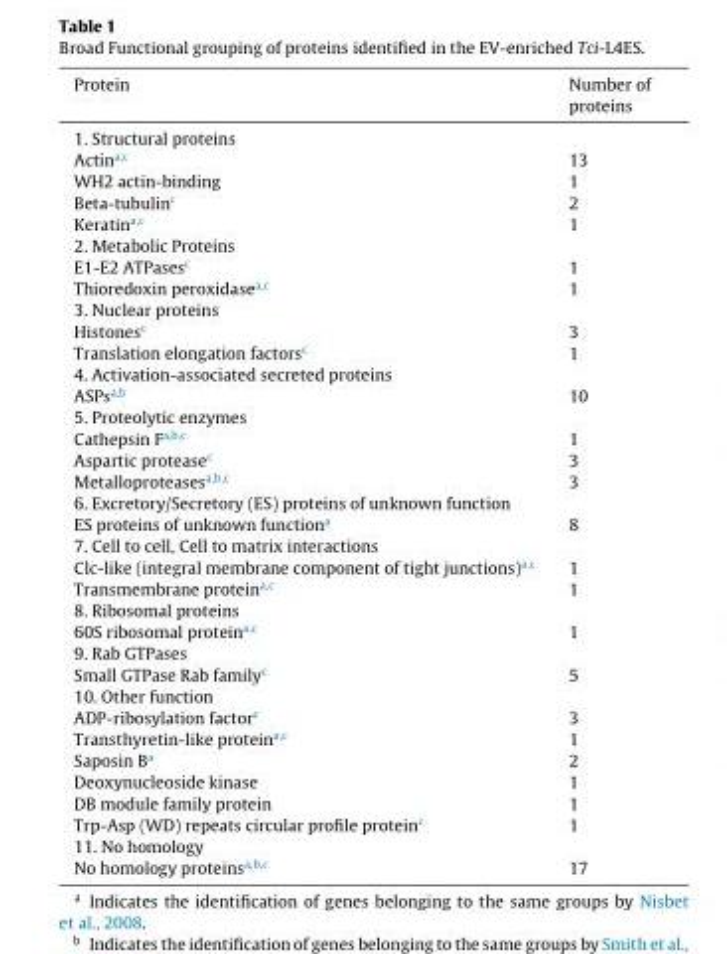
<table><thead><tr><td>Protein</td><td>Number of proteins</td></tr></thead><tbody><tr><td colspan="2">1. Structural proteins</td></tr><tr><td>Actin<sup>a</sup>,<sup>c</sup></td><td>13</td></tr><tr><td>WH2 actin-binding</td><td>1</td></tr><tr><td>Beta-tubulin<sup>c</sup></td><td>2</td></tr><tr><td>Keratin<sup>a</sup>,<sup>c</sup></td><td>1</td></tr><tr><td colspan="2">2. Metabolic Proteins</td></tr><tr><td>E1-E2 ATPases<sup>c</sup></td><td>1</td></tr><tr><td>Thioredoxin peroxidase<sup>a</sup>,<sup>c</sup></td><td>1</td></tr><tr><td colspan="2">3. Nuclear proteins</td></tr><tr><td>Histones<sup>c</sup></td><td>3</td></tr><tr><td>Translation elongation factors<sup>c</sup></td><td>1</td></tr><tr><td colspan="2">4. Activation-associated secreted proteins</td></tr><tr><td>ASPs<sup>a</sup>,<sup>b</sup></td><td>10</td></tr><tr><td colspan="2">5. Proteolytic enzymes</td></tr><tr><td>Cathepsin F<sup>a</sup>,<sup>b</sup>,<sup>c</sup></td><td>1</td></tr><tr><td>Aspartic protease<sup>c</sup></td><td>3</td></tr><tr><td>Metalloproteases<sup>a</sup>,<sup>b</sup>,<sup>c</sup></td><td>3</td></tr><tr><td colspan="2">6. Excretory/Secretory (ES) proteins of unknown function</td></tr><tr><td>ES proteins of unknown function<sup>a</sup></td><td>8</td></tr><tr><td colspan="2">7. Cell to cell, Cell to matrix interactions</td></tr><tr><td>Clc-like (integral membrane component of tight junctions)<sup>a</sup>,<sup>c</sup></td><td>1</td></tr><tr><td>Transmembrane protein<sup>a</sup>,<sup>c</sup></td><td>1</td></tr><tr><td colspan="2">8. Ribosomal proteins</td></tr><tr><td>60S ribosomal protein<sup>a</sup>,<sup>c</sup></td><td>1</td></tr><tr><td colspan="2">9. Rab GTPases</td></tr><tr><td>Small GTPase Rab family<sup>c</sup></td><td>5</td></tr><tr><td colspan="2">10. Other function</td></tr><tr><td>ADP-ribosylation factor<sup>c</sup></td><td>3</td></tr><tr><td>Transthyretin-like protein<sup>a</sup>,<sup>c</sup></td><td>1</td></tr><tr><td>Saposin B<sup>a</sup></td><td>2</td></tr><tr><td>Deoxynucleoside kinase</td><td>1</td></tr><tr><td>DB module family protein</td><td>1</td></tr><tr><td>Trp-Asp (WD) repeats circular profile protein<sup>c</sup></td><td>1</td></tr><tr><td colspan="2">11. No homology</td></tr><tr><td>No homology proteins<sup>a</sup>,<sup>b</sup>,<sup>c</sup></td><td>17</td></tr></tbody></table>